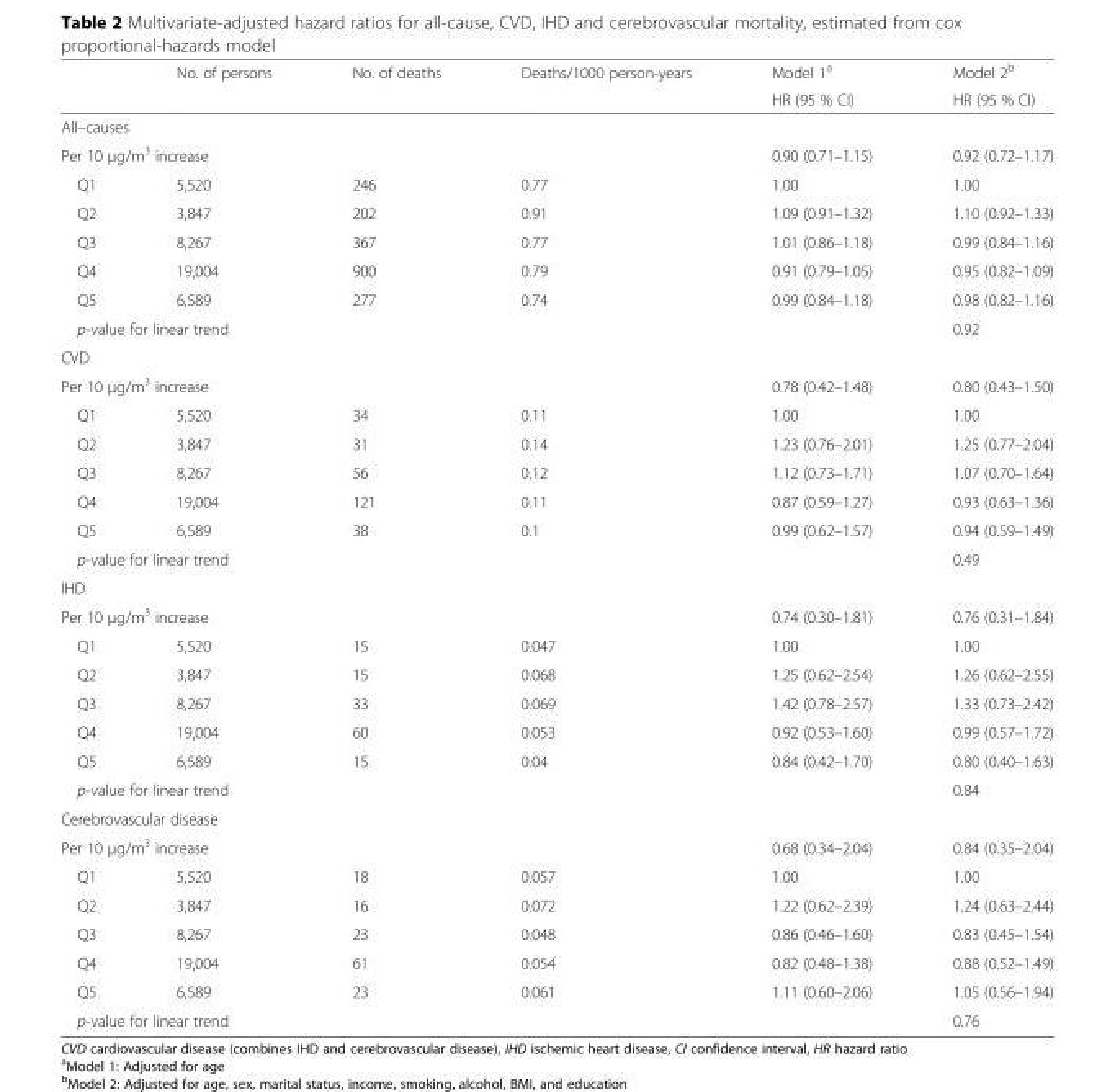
<table><thead><tr><td rowspan="2"></td><td rowspan="2">No. of persons</td><td rowspan="2">No. of deaths</td><td rowspan="2">Deaths/1000 person-years</td><td rowspan="2">Model 1<sup>a</sup> HR (95 % CI)</td><td rowspan="2">Model 2<sup>b</sup> HR (95 % CI)</td></tr><tr></tr></thead><tbody><tr><td colspan="6">All–causes</td></tr><tr><td colspan="3">Per 10 μg/m<sup>3</sup> increase</td><td></td><td>0.90 (0.71–1.15)</td><td>0.92 (0.72–1.17)</td></tr><tr><td>Q1</td><td>5,520</td><td>246</td><td>0.77</td><td>1.00</td><td>1.00</td></tr><tr><td>Q2</td><td>3,847</td><td>202</td><td>0.91</td><td>1.09 (0.91–1.32)</td><td>1.10 (0.92–1.33)</td></tr><tr><td>Q3</td><td>8,267</td><td>367</td><td>0.77</td><td>1.01 (0.86–1.18)</td><td>0.99 (0.84–1.16)</td></tr><tr><td>Q4</td><td>19,004</td><td>900</td><td>0.79</td><td>0.91 (0.79–1.05)</td><td>0.95 (0.82–1.09)</td></tr><tr><td>Q5</td><td>6,589</td><td>277</td><td>0.74</td><td>0.99 (0.84–1.18)</td><td>0.98 (0.82–1.16)</td></tr><tr><td colspan="3">p-value for linear trend</td><td></td><td></td><td>0.92</td></tr><tr><td colspan="6">CVD</td></tr><tr><td colspan="3">Per 10 μg/m<sup>3</sup> increase</td><td></td><td>0.78 (0.42–1.48)</td><td>0.80 (0.43–1.50)</td></tr><tr><td>Q1</td><td>5,520</td><td>34</td><td>0.11</td><td>1.00</td><td>1.00</td></tr><tr><td>Q2</td><td>3,847</td><td>31</td><td>0.14</td><td>1.23 (0.76–2.01)</td><td>1.25 (0.77–2.04)</td></tr><tr><td>Q3</td><td>8,267</td><td>56</td><td>0.12</td><td>1.12 (0.73–1.71)</td><td>1.07 (0.70–1.64)</td></tr><tr><td>Q4</td><td>19,004</td><td>121</td><td>0.11</td><td>0.87 (0.59–1.27)</td><td>0.93 (0.63–1.36)</td></tr><tr><td>Q5</td><td>6,589</td><td>38</td><td>0.1</td><td>0.99 (0.62–1.57)</td><td>0.94 (0.59–1.49)</td></tr><tr><td colspan="3">p-value for linear trend</td><td></td><td></td><td>0.49</td></tr><tr><td colspan="6">IHD</td></tr><tr><td colspan="3">Per 10 μg/m<sup>3</sup> increase</td><td></td><td>0.74 (0.30–1.81)</td><td>0.76 (0.31–1.84)</td></tr><tr><td>Q1</td><td>5,520</td><td>15</td><td>0.047</td><td>1.00</td><td>1.00</td></tr><tr><td>Q2</td><td>3,847</td><td>15</td><td>0.068</td><td>1.25 (0.62–2.54)</td><td>1.26 (0.62–2.55)</td></tr><tr><td>Q3</td><td>8,267</td><td>33</td><td>0.069</td><td>1.42 (0.78–2.57)</td><td>1.33 (0.73–2.42)</td></tr><tr><td>Q4</td><td>19,004</td><td>60</td><td>0.053</td><td>0.92 (0.53–1.60)</td><td>0.99 (0.57–1.72)</td></tr><tr><td>Q5</td><td>6,589</td><td>15</td><td>0.04</td><td>0.84 (0.42–1.70)</td><td>0.80 (0.40–1.63)</td></tr><tr><td colspan="3">p-value for linear trend</td><td></td><td></td><td>0.84</td></tr><tr><td colspan="6">Cerebrovascular disease</td></tr><tr><td colspan="3">Per 10 μg/m<sup>3</sup> increase</td><td></td><td>0.68 (0.34–2.04)</td><td>0.84 (0.35–2.04)</td></tr><tr><td>Q1</td><td>5,520</td><td>18</td><td>0.057</td><td>1.00</td><td>1.00</td></tr><tr><td>Q2</td><td>3,847</td><td>16</td><td>0.072</td><td>1.22 (0.62–2.39)</td><td>1.24 (0.63–2.44)</td></tr><tr><td>Q3</td><td>8,267</td><td>23</td><td>0.048</td><td>0.86 (0.46–1.60)</td><td>0.83 (0.45–1.54)</td></tr><tr><td>Q4</td><td>19,004</td><td>61</td><td>0.054</td><td>0.82 (0.48–1.38)</td><td>0.88 (0.52–1.49)</td></tr><tr><td>Q5</td><td>6,589</td><td>23</td><td>0.061</td><td>1.11 (0.60–2.06)</td><td>1.05 (0.56–1.94)</td></tr><tr><td colspan="3">p-value for linear trend</td><td></td><td></td><td>0.76</td></tr></tbody></table>